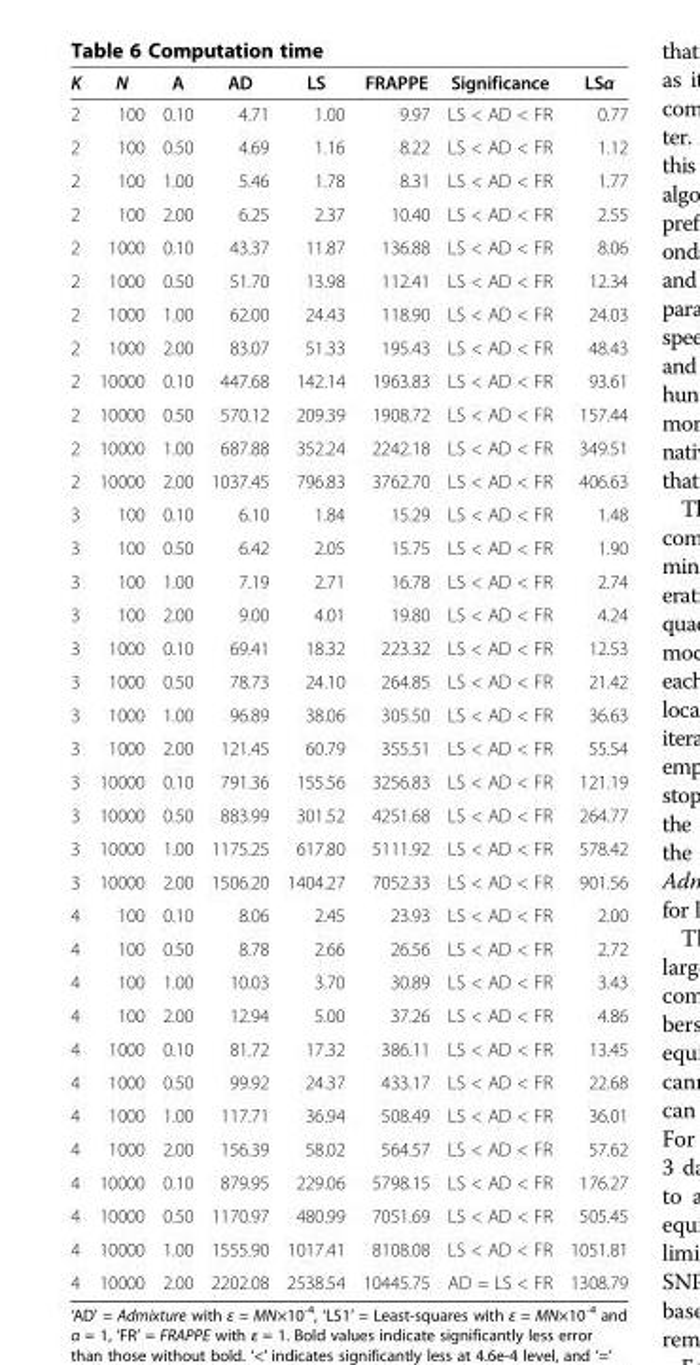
<table><thead><tr><td>K</td><td>N</td><td>Α</td><td>AD</td><td>LS</td><td>FRAPPE</td><td>Significance</td><td>LSα</td></tr></thead><tbody><tr><td>2</td><td>100</td><td>0.10</td><td>4.71</td><td>1.00</td><td>9.97</td><td>LS &lt; AD &lt; FR</td><td>0.77</td></tr><tr><td>2</td><td>100</td><td>0.50</td><td>4.69</td><td>1.16</td><td>8.22</td><td>LS &lt; AD &lt; FR</td><td>1.12</td></tr><tr><td>2</td><td>100</td><td>1.00</td><td>5.46</td><td>1.78</td><td>8.31</td><td>LS &lt; AD &lt; FR</td><td>1.77</td></tr><tr><td>2</td><td>100</td><td>2.00</td><td>6.25</td><td>2.37</td><td>10.40</td><td>LS &lt; AD &lt; FR</td><td>2.55</td></tr><tr><td>2</td><td>1000</td><td>0.10</td><td>43.37</td><td>11.87</td><td>136.88</td><td>LS &lt; AD &lt; FR</td><td>8.06</td></tr><tr><td>2</td><td>1000</td><td>0.50</td><td>51.70</td><td>13.98</td><td>112.41</td><td>LS &lt; AD &lt; FR</td><td>12.34</td></tr><tr><td>2</td><td>1000</td><td>1.00</td><td>62.00</td><td>24.43</td><td>118.90</td><td>LS &lt; AD &lt; FR</td><td>24.03</td></tr><tr><td>2</td><td>1000</td><td>2.00</td><td>83.07</td><td>51.33</td><td>195.43</td><td>LS &lt; AD &lt; FR</td><td>48.43</td></tr><tr><td>2</td><td>10000</td><td>0.10</td><td>447.68</td><td>142.14</td><td>1963.83</td><td>LS &lt; AD &lt; FR</td><td>93.61</td></tr><tr><td>2</td><td>10000</td><td>0.50</td><td>570.12</td><td>209.39</td><td>1908.72</td><td>LS &lt; AD &lt; FR</td><td>157.44</td></tr><tr><td>2</td><td>10000</td><td>1.00</td><td>687.88</td><td>352.24</td><td>2242.18</td><td>LS &lt; AD &lt; FR</td><td>349.51</td></tr><tr><td>2</td><td>10000</td><td>2.00</td><td>1037.45</td><td>796.83</td><td>3762.70</td><td>LS &lt; AD &lt; FR</td><td>406.63</td></tr><tr><td>3</td><td>100</td><td>0.10</td><td>6.10</td><td>1.84</td><td>15.29</td><td>LS &lt; AD &lt; FR</td><td>1.48</td></tr><tr><td>3</td><td>100</td><td>0.50</td><td>6.42</td><td>2.05</td><td>15.75</td><td>LS &lt; AD &lt; FR</td><td>1.90</td></tr><tr><td>3</td><td>100</td><td>1.00</td><td>7.19</td><td>2.71</td><td>16.78</td><td>LS &lt; AD &lt; FR</td><td>2.74</td></tr><tr><td>3</td><td>100</td><td>2.00</td><td>9.00</td><td>4.01</td><td>19.80</td><td>LS &lt; AD &lt; FR</td><td>4.24</td></tr><tr><td>3</td><td>1000</td><td>0.10</td><td>69.41</td><td>18.32</td><td>223.32</td><td>LS &lt; AD &lt; FR</td><td>12.53</td></tr><tr><td>3</td><td>1000</td><td>0.50</td><td>78.73</td><td>24.10</td><td>264.85</td><td>LS &lt; AD &lt; FR</td><td>21.42</td></tr><tr><td>3</td><td>1000</td><td>1.00</td><td>96.89</td><td>38.06</td><td>305.50</td><td>LS &lt; AD &lt; FR</td><td>36.63</td></tr><tr><td>3</td><td>1000</td><td>2.00</td><td>121.45</td><td>60.79</td><td>355.51</td><td>LS &lt; AD &lt; FR</td><td>55.54</td></tr><tr><td>3</td><td>10000</td><td>0.10</td><td>791.36</td><td>155.56</td><td>3256.83</td><td>LS &lt; AD &lt; FR</td><td>121.19</td></tr><tr><td>3</td><td>10000</td><td>0.50</td><td>883.99</td><td>301.52</td><td>4251.68</td><td>LS &lt; AD &lt; FR</td><td>264.77</td></tr><tr><td>3</td><td>10000</td><td>1.00</td><td>1175.25</td><td>617.80</td><td>5111.92</td><td>LS &lt; AD &lt; FR</td><td>578.42</td></tr><tr><td>3</td><td>10000</td><td>2.00</td><td>1506.20</td><td>1404.27</td><td>7052.33</td><td>LS &lt; AD &lt; FR</td><td>901.56</td></tr><tr><td>4</td><td>100</td><td>0.10</td><td>8.06</td><td>2.45</td><td>23.93</td><td>LS &lt; AD &lt; FR</td><td>2.00</td></tr><tr><td>4</td><td>100</td><td>0.50</td><td>8.78</td><td>2.66</td><td>26.56</td><td>LS &lt; AD &lt; FR</td><td>2.72</td></tr><tr><td>4</td><td>100</td><td>1.00</td><td>10.03</td><td>3.70</td><td>30.89</td><td>LS &lt; AD &lt; FR</td><td>3.43</td></tr><tr><td>4</td><td>100</td><td>2.00</td><td>12.94</td><td>5.00</td><td>37.26</td><td>LS &lt; AD &lt; FR</td><td>4.86</td></tr><tr><td>4</td><td>1000</td><td>0.10</td><td>81.72</td><td>17.32</td><td>386.11</td><td>LS &lt; AD &lt; FR</td><td>13.45</td></tr><tr><td>4</td><td>1000</td><td>0.50</td><td>99.92</td><td>24.37</td><td>433.17</td><td>LS &lt; AD &lt; FR</td><td>22.68</td></tr><tr><td>4</td><td>1000</td><td>1.00</td><td>117.71</td><td>36.94</td><td>508.49</td><td>LS &lt; AD &lt; FR</td><td>36.01</td></tr><tr><td>4</td><td>1000</td><td>2.00</td><td>156.39</td><td>58.02</td><td>564.57</td><td>LS &lt; AD &lt; FR</td><td>57.62</td></tr><tr><td>4</td><td>10000</td><td>0.10</td><td>879.95</td><td>229.06</td><td>5798.15</td><td>LS &lt; AD &lt; FR</td><td>176.27</td></tr><tr><td>4</td><td>10000</td><td>0.50</td><td>1170.97</td><td>480.99</td><td>7051.69</td><td>LS &lt; AD &lt; FR</td><td>505.45</td></tr><tr><td>4</td><td>10000</td><td>1.00</td><td>1555.90</td><td>1017.41</td><td>8108.08</td><td>LS &lt; AD &lt; FR</td><td>1051.81</td></tr><tr><td>4</td><td>10000</td><td>2.00</td><td>2202.08</td><td>2538.54</td><td>10445.75</td><td>AD = LS &lt; FR</td><td>1308.79</td></tr></tbody></table>